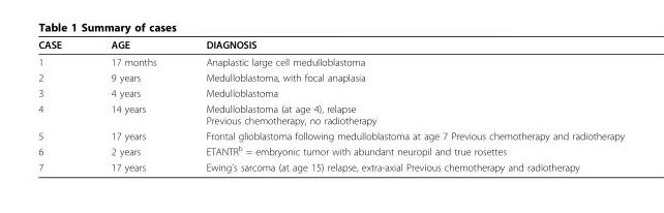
<table><thead><tr><td>CASE</td><td>AGE</td><td>DIAGNOSIS</td></tr></thead><tbody><tr><td>1</td><td>17 months</td><td>Anaplastic large cell medulloblastoma</td></tr><tr><td>2</td><td>9 years</td><td>Medulloblastoma, with focal anaplasia</td></tr><tr><td>3</td><td>4 years</td><td>Medulloblastoma</td></tr><tr><td>4</td><td>14 years</td><td>Medulloblastoma (at age 4), relapse Previous chemotherapy, no radiotherapy</td></tr><tr><td>5</td><td>17 years</td><td>Frontal glioblastoma following medulloblastoma at age 7 Previous chemotherapy and radiotherapy</td></tr><tr><td>6</td><td>2 years</td><td>ETANTR<sup>b</sup> = embryonic tumor with abundant neuropil and true rosettes</td></tr><tr><td>7</td><td>17 years</td><td>Ewing’s sarcoma (at age 15) relapse, extra-axial Previous chemotherapy and radiotherapy</td></tr></tbody></table>